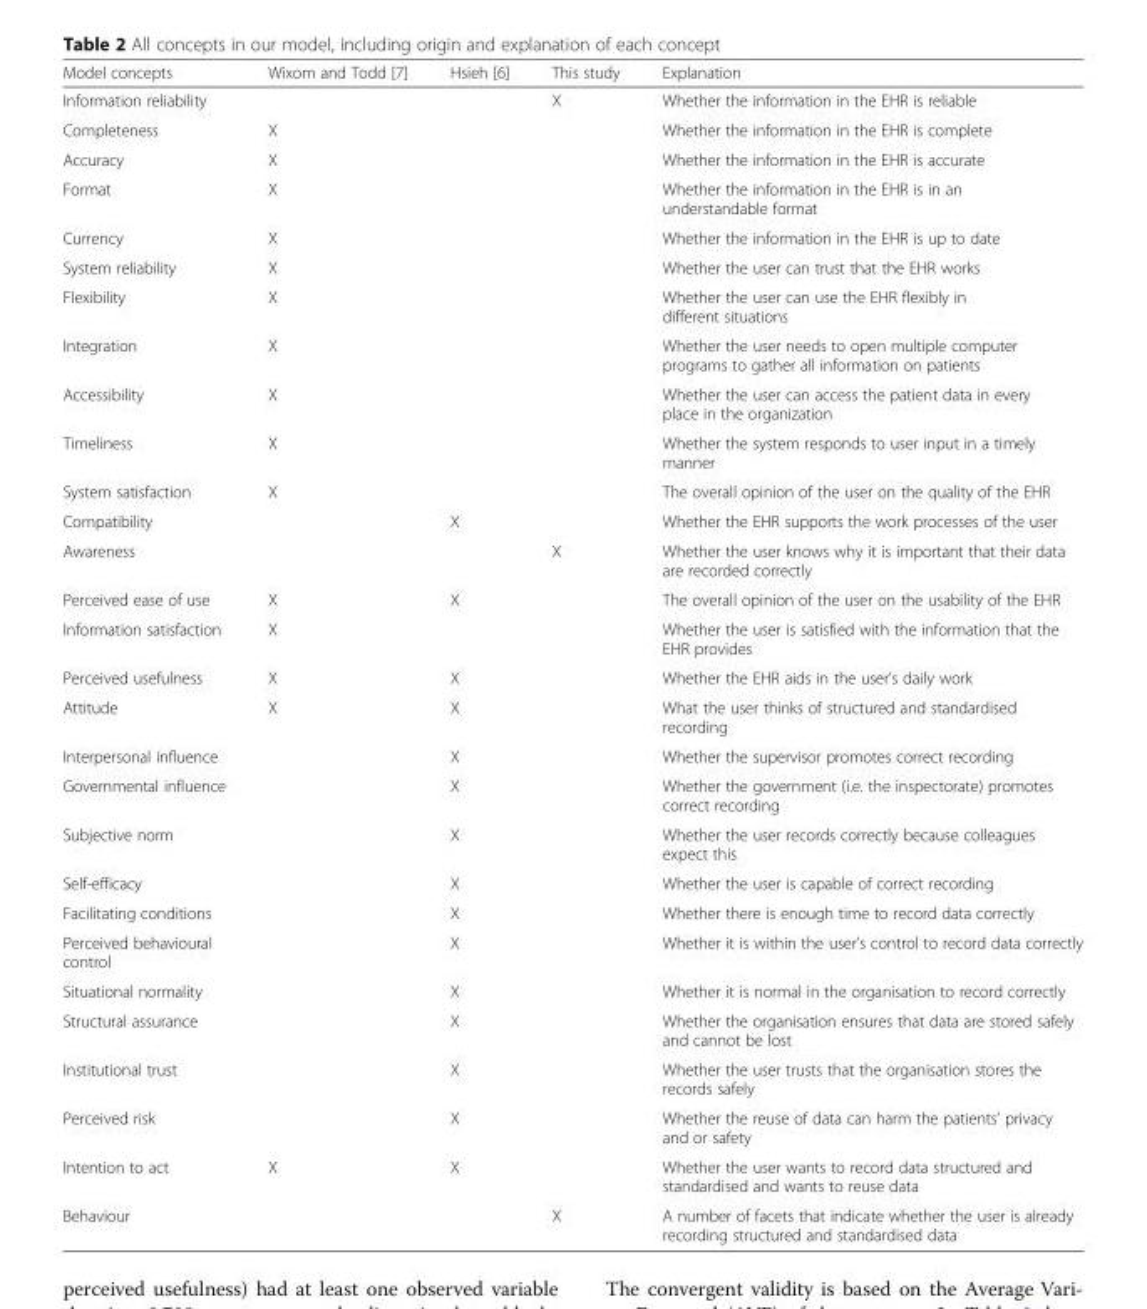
<table><thead><tr><td>Model concepts</td><td>Wixom and Todd [7]</td><td>Hsieh [6]</td><td>This study</td><td>Explanation</td></tr></thead><tbody><tr><td>Information reliability</td><td></td><td></td><td>X</td><td>Whether the information in the EHR is reliable</td></tr><tr><td>Completeness</td><td>X</td><td></td><td></td><td>Whether the information in the EHR is complete</td></tr><tr><td>Accuracy</td><td>X</td><td></td><td></td><td>Whether the information in the EHR is accurate</td></tr><tr><td>Format</td><td>X</td><td></td><td></td><td>Whether the information in the EHR is in an understandable format</td></tr><tr><td>Currency</td><td>X</td><td></td><td></td><td>Whether the information in the EHR is up to date</td></tr><tr><td>System reliability</td><td>X</td><td></td><td></td><td>Whether the user can trust that the EHR works</td></tr><tr><td>Flexibility</td><td>X</td><td></td><td></td><td>Whether the user can use the EHR flexibly in different situations</td></tr><tr><td>Integration</td><td>X</td><td></td><td></td><td>Whether the user needs to open multiple computer programs to gather all information on patients</td></tr><tr><td>Accessibility</td><td>X</td><td></td><td></td><td>Whether the user can access the patient data in every place in the organization</td></tr><tr><td>Timeliness</td><td>X</td><td></td><td></td><td>Whether the system responds to user input in a timely manner</td></tr><tr><td>System satisfaction</td><td>X</td><td></td><td></td><td>The overall opinion of the user on the quality of the EHR</td></tr><tr><td>Compatibility</td><td></td><td>X</td><td></td><td>Whether the EHR supports the work processes of the user</td></tr><tr><td>Awareness</td><td></td><td></td><td>X</td><td>Whether the user knows why it is important that their data are recorded correctly</td></tr><tr><td>Perceived ease of use</td><td>X</td><td>X</td><td></td><td>The overall opinion of the user on the usability of the EHR</td></tr><tr><td>Information satisfaction</td><td>X</td><td></td><td></td><td>Whether the user is satisfied with the information that the EHR provides</td></tr><tr><td>Perceived usefulness</td><td>X</td><td>X</td><td></td><td>Whether the EHR aids in the user’s daily work</td></tr><tr><td>Attitude</td><td>X</td><td>X</td><td></td><td>What the user thinks of structured and standardised recording</td></tr><tr><td>Interpersonal influence</td><td></td><td>X</td><td></td><td>Whether the supervisor promotes correct recording</td></tr><tr><td>Governmental influence</td><td></td><td>X</td><td></td><td>Whether the government (i.e. the inspectorate) promotes correct recording</td></tr><tr><td>Subjective norm</td><td></td><td>X</td><td></td><td>Whether the user records correctly because colleagues expect this</td></tr><tr><td>Self-efficacy</td><td></td><td>X</td><td></td><td>Whether the user is capable of correct recording</td></tr><tr><td>Facilitating conditions</td><td></td><td>X</td><td></td><td>Whether there is enough time to record data correctly</td></tr><tr><td>Perceived behavioural control</td><td></td><td>X</td><td></td><td>Whether it is within the user’s control to record data correctly</td></tr><tr><td>Situational normality</td><td></td><td>X</td><td></td><td>Whether it is normal in the organisation to record correctly</td></tr><tr><td>Structural assurance</td><td></td><td>X</td><td></td><td>Whether the organisation ensures that data are stored safely and cannot be lost</td></tr><tr><td>Institutional trust</td><td></td><td>X</td><td></td><td>Whether the user trusts that the organisation stores the records safely</td></tr><tr><td>Perceived risk</td><td></td><td>X</td><td></td><td>Whether the reuse of data can harm the patients’ privacy and or safety</td></tr><tr><td>Intention to act</td><td>X</td><td>X</td><td></td><td>Whether the user wants to record data structured and standardised and wants to reuse data</td></tr><tr><td>Behaviour</td><td></td><td></td><td>X</td><td>A number of facets that indicate whether the user is already recording structured and standardised data</td></tr></tbody></table>